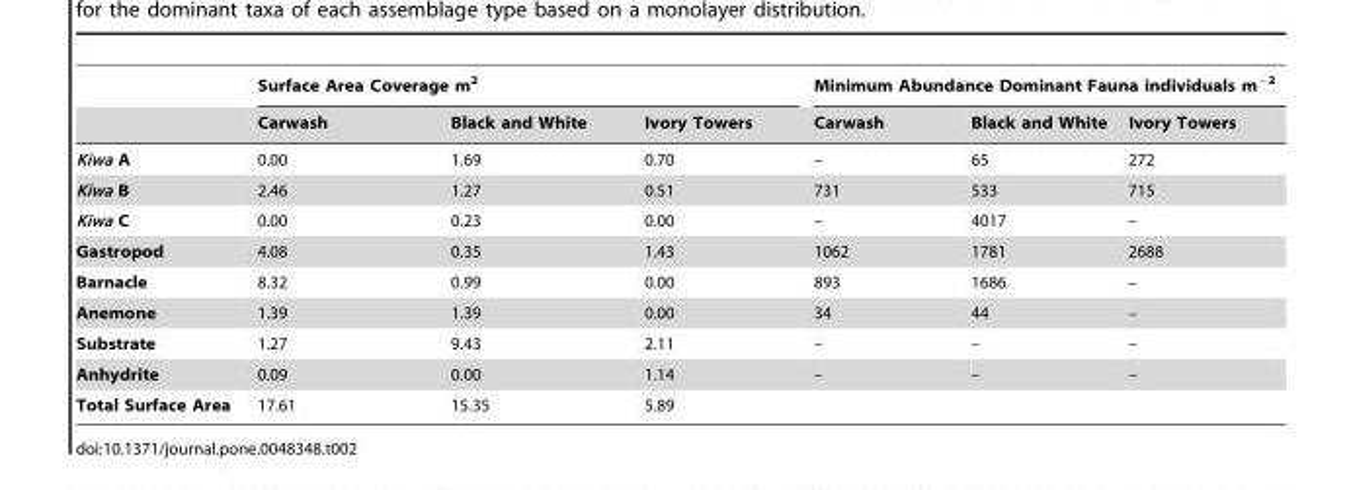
<table><thead><tr><td rowspan="2"></td><td colspan="3">Surface Area Coverage m<sup>2</sup></td><td colspan="3">Minimum Abundance Dominant Fauna individuals m<sup>−2</sup></td></tr><tr><td>Carwash</td><td>Black and White</td><td>Ivory Towers</td><td>Carwash</td><td>Black and White</td><td>Ivory Towers</td></tr></thead><tbody><tr><td>Kiwa A</td><td>0.00</td><td>1.69</td><td>0.70</td><td>–</td><td>65</td><td>272</td></tr><tr><td>Kiwa B</td><td>2.46</td><td>1.27</td><td>0.51</td><td>731</td><td>533</td><td>715</td></tr><tr><td>Kiwa C</td><td>0.00</td><td>0.23</td><td>0.00</td><td>–</td><td>4017</td><td>–</td></tr><tr><td>Gastropod</td><td>4.08</td><td>0.35</td><td>1.43</td><td>1062</td><td>1781</td><td>2688</td></tr><tr><td>Barnacle</td><td>8.32</td><td>0.99</td><td>0.00</td><td>893</td><td>1686</td><td>–</td></tr><tr><td>Anemone</td><td>1.39</td><td>1.39</td><td>0.00</td><td>34</td><td>44</td><td>–</td></tr><tr><td>Substrate</td><td>1.27</td><td>9.43</td><td>2.11</td><td>–</td><td>–</td><td>–</td></tr><tr><td>Anhydrite</td><td>0.09</td><td>0.00</td><td>1.14</td><td>–</td><td>–</td><td>–</td></tr><tr><td>Total Surface Area</td><td>17.61</td><td>15.35</td><td>5.89</td><td></td><td></td><td></td></tr></tbody></table>